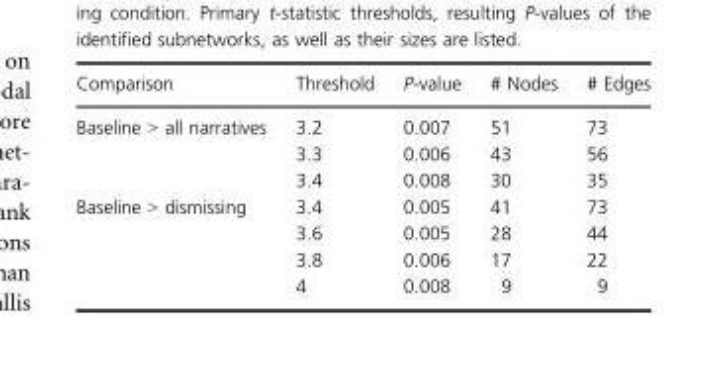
<table><thead><tr><td>Comparison</td><td>Threshold</td><td>P-value</td><td># Nodes</td><td># Edges</td></tr></thead><tbody><tr><td rowspan="3">Baseline &gt; all narratives</td><td>3.2</td><td>0.007</td><td>51</td><td>73</td></tr><tr><td>3.3</td><td>0.006</td><td>43</td><td>56</td></tr><tr><td>3.4</td><td>0.008</td><td>30</td><td>35</td></tr><tr><td rowspan="4">Baseline &gt; dismissing</td><td>3.4</td><td>0.005</td><td>41</td><td>73</td></tr><tr><td>3.6</td><td>0.005</td><td>28</td><td>44</td></tr><tr><td>3.8</td><td>0.006</td><td>17</td><td>22</td></tr><tr><td>4</td><td>0.008</td><td>9</td><td>9</td></tr></tbody></table>